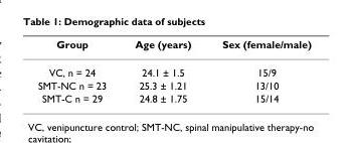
<table><thead><tr><td>Group</td><td>Age (years)</td><td>Sex (female/male)</td></tr></thead><tbody><tr><td>VC, n = 24</td><td>24.1 ± 1.5</td><td>15/9</td></tr><tr><td>SMT-NC n = 23</td><td>25.3 ± 1.21</td><td>13/10</td></tr><tr><td>SMT-C n = 29</td><td>24.8 ± 1.75</td><td>15/14</td></tr></tbody></table>